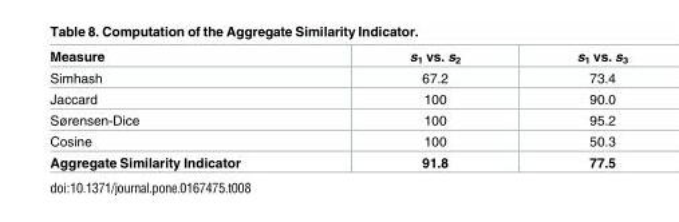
<table><thead><tr><td>Measure</td><td>s<sub>1</sub> vs. s<sub>2</sub></td><td>s<sub>1</sub> vs. s<sub>3</sub></td></tr></thead><tbody><tr><td>Simhash</td><td>67.2</td><td>73.4</td></tr><tr><td>Jaccard</td><td>100</td><td>90.0</td></tr><tr><td>Sørensen-Dice</td><td>100</td><td>95.2</td></tr><tr><td>Cosine</td><td>100</td><td>50.3</td></tr><tr><td>Aggregate Similarity Indicator</td><td>91.8</td><td>77.5</td></tr></tbody></table>